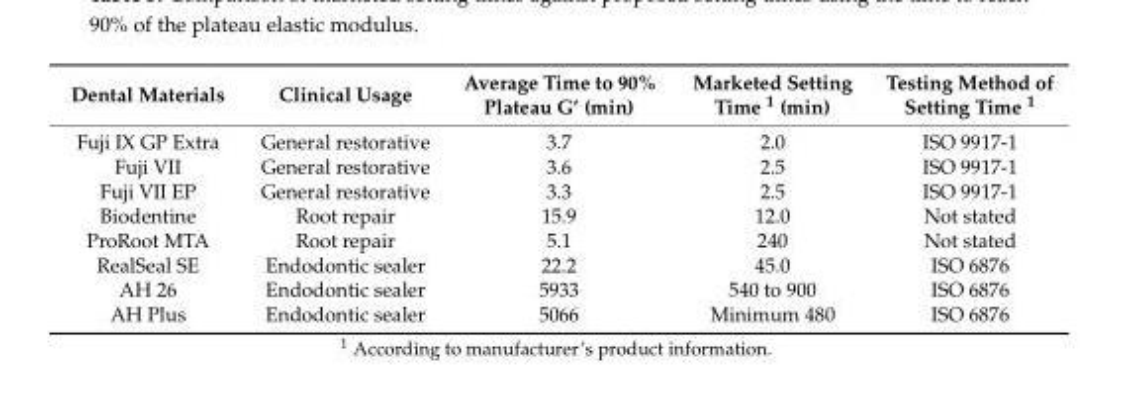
<table><thead><tr><td>Dental Materials</td><td>Clinical Usage</td><td>Average Time to 90% Plateau G’ (min)</td><td>Marketed Setting Time <sup>1</sup> (min)</td><td>Testing Method of Setting Time <sup>1</sup></td></tr></thead><tbody><tr><td>Fuji IX GP Extra</td><td>General restorative</td><td>3.7</td><td>2.0</td><td>ISO 9917-1</td></tr><tr><td>Fuji VII</td><td>General restorative</td><td>3.6</td><td>2.5</td><td>ISO 9917-1</td></tr><tr><td>Fuji VII EP</td><td>General restorative</td><td>3.3</td><td>2.5</td><td>ISO 9917-1</td></tr><tr><td>Biodentine</td><td>Root repair</td><td>15.9</td><td>12.0</td><td>Not stated</td></tr><tr><td>ProRoot MTA</td><td>Root repair</td><td>5.1</td><td>240</td><td>Not stated</td></tr><tr><td>RealSeal SE</td><td>Endodontic sealer</td><td>22.2</td><td>45.0</td><td>ISO 6876</td></tr><tr><td>AH 26</td><td>Endodontic sealer</td><td>5933</td><td>540 to 900</td><td>ISO 6876</td></tr><tr><td>AH Plus</td><td>Endodontic sealer</td><td>5066</td><td>Minimum 480</td><td>ISO 6876</td></tr></tbody></table>